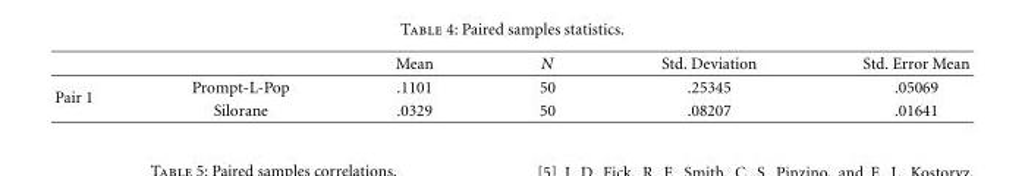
<table><thead><tr><td></td><td></td><td>Mean</td><td>N</td><td>Std. Deviation</td><td>Std. Error Mean</td></tr></thead><tbody><tr><td rowspan="2">Pair 1</td><td>Prompt-L-Pop</td><td>.1101</td><td>50</td><td>.25345</td><td>.05069</td></tr><tr><td>Silorane</td><td>.0329</td><td>50</td><td>.08207</td><td>.01641</td></tr></tbody></table>